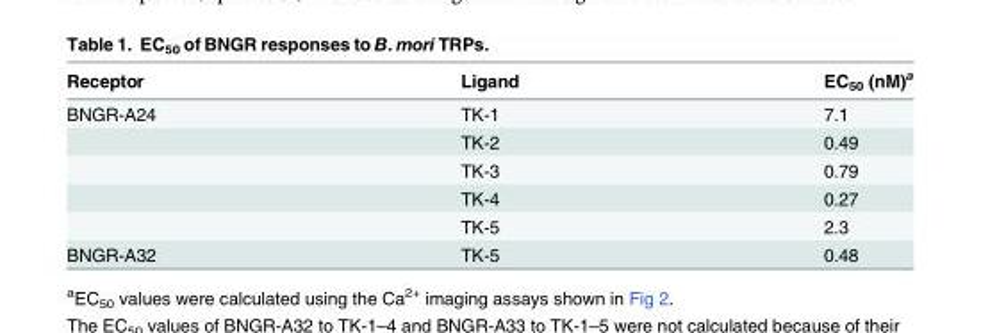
<table><thead><tr><td>Receptor</td><td>Ligand</td><td>EC<sub>50</sub> (nM)<sup>a</sup></td></tr></thead><tbody><tr><td rowspan="5">BNGR-A24</td><td>TK-1</td><td>7.1</td></tr><tr><td>TK-2</td><td>0.49</td></tr><tr><td>TK-3</td><td>0.79</td></tr><tr><td>TK-4</td><td>0.27</td></tr><tr><td>TK-5</td><td>2.3</td></tr><tr><td>BNGR-A32</td><td>TK-5</td><td>0.48</td></tr></tbody></table>